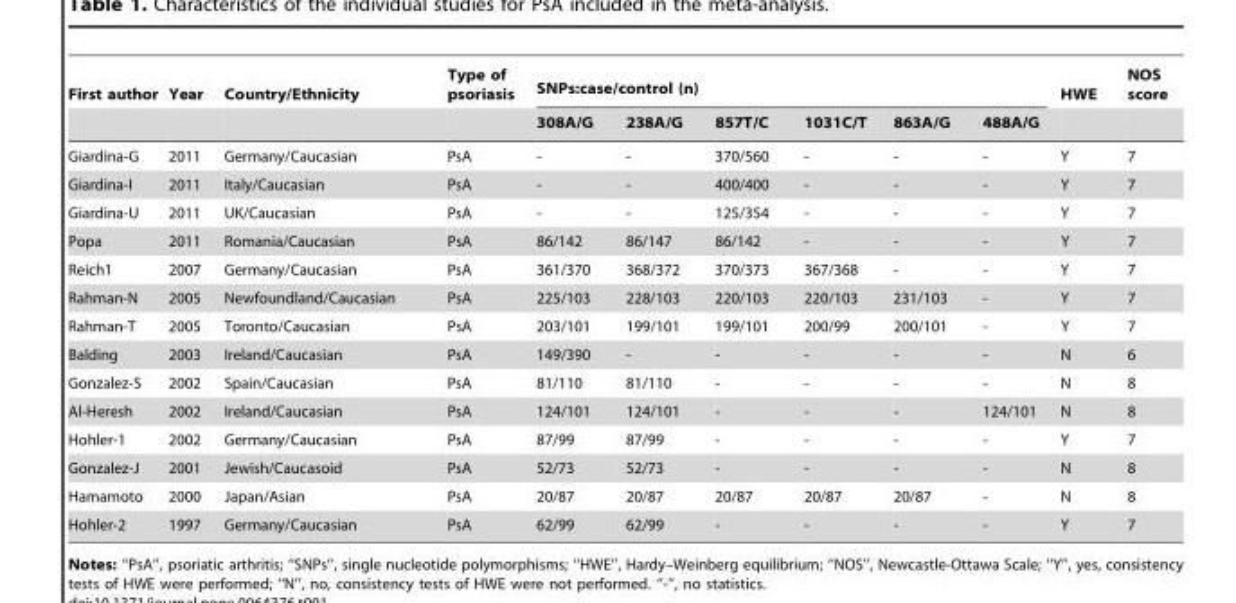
<table><thead><tr><td rowspan="2">First author</td><td rowspan="2">Year</td><td rowspan="2">Country/Ethnicity</td><td rowspan="2">Type of psoriasis</td><td colspan="6">SNPs:case/control (n)</td><td rowspan="2">HWE</td><td rowspan="2">NOS score</td></tr><tr><td>308A/G</td><td>238A/G</td><td>857T/C</td><td>1031C/T</td><td>863A/G</td><td>488A/G</td></tr></thead><tbody><tr><td>Giardina-G</td><td>2011</td><td>Germany/Caucasian</td><td>PsA</td><td>-</td><td>-</td><td>370/560</td><td>-</td><td>-</td><td>-</td><td>Y</td><td>7</td></tr><tr><td>Giardina-I</td><td>2011</td><td>Italy/Caucasian</td><td>PsA</td><td>-</td><td>-</td><td>400/400</td><td>-</td><td>-</td><td>-</td><td>Y</td><td>7</td></tr><tr><td>Giardina-U</td><td>2011</td><td>UK/Caucasian</td><td>PsA</td><td>-</td><td>-</td><td>125/354</td><td>-</td><td>-</td><td>-</td><td>Y</td><td>7</td></tr><tr><td>Popa</td><td>2011</td><td>Romania/Caucasian</td><td>PsA</td><td>86/142</td><td>86/147</td><td>86/142</td><td>-</td><td>-</td><td>-</td><td>Y</td><td>7</td></tr><tr><td>Reich1</td><td>2007</td><td>Germany/Caucasian</td><td>PsA</td><td>361/370</td><td>368/372</td><td>370/373</td><td>367/368</td><td>-</td><td>-</td><td>Y</td><td>7</td></tr><tr><td>Rahman-N</td><td>2005</td><td>Newfoundland/Caucasian</td><td>PsA</td><td>225/103</td><td>228/103</td><td>220/103</td><td>220/103</td><td>231/103</td><td>-</td><td>Y</td><td>7</td></tr><tr><td>Rahman-T</td><td>2005</td><td>Toronto/Caucasian</td><td>PsA</td><td>203/101</td><td>199/101</td><td>199/101</td><td>200/99</td><td>200/101</td><td>-</td><td>Y</td><td>7</td></tr><tr><td>Balding</td><td>2003</td><td>Ireland/Caucasian</td><td>PsA</td><td>149/390</td><td>-</td><td>-</td><td>-</td><td>-</td><td>-</td><td>N</td><td>6</td></tr><tr><td>Gonzalez-S</td><td>2002</td><td>Spain/Caucasian</td><td>PsA</td><td>81/110</td><td>81/110</td><td>-</td><td>-</td><td>-</td><td>-</td><td>N</td><td>8</td></tr><tr><td>Al-Heresh</td><td>2002</td><td>Ireland/Caucasian</td><td>PsA</td><td>124/101</td><td>124/101</td><td>-</td><td>-</td><td>-</td><td>124/101</td><td>N</td><td>8</td></tr><tr><td>Hohler-1</td><td>2002</td><td>Germany/Caucasian</td><td>PsA</td><td>87/99</td><td>87/99</td><td>-</td><td>-</td><td>-</td><td>-</td><td>Y</td><td>7</td></tr><tr><td>Gonzalez-J</td><td>2001</td><td>Jewish/Caucasoid</td><td>PsA</td><td>52/73</td><td>52/73</td><td>-</td><td>-</td><td>-</td><td>-</td><td>N</td><td>8</td></tr><tr><td>Hamamoto</td><td>2000</td><td>Japan/Asian</td><td>PsA</td><td>20/87</td><td>20/87</td><td>20/87</td><td>20/87</td><td>20/87</td><td>-</td><td>N</td><td>8</td></tr><tr><td>Hohler-2</td><td>1997</td><td>Germany/Caucasian</td><td>PsA</td><td>62/99</td><td>62/99</td><td>-</td><td>-</td><td>-</td><td>-</td><td>Y</td><td>7</td></tr></tbody></table>